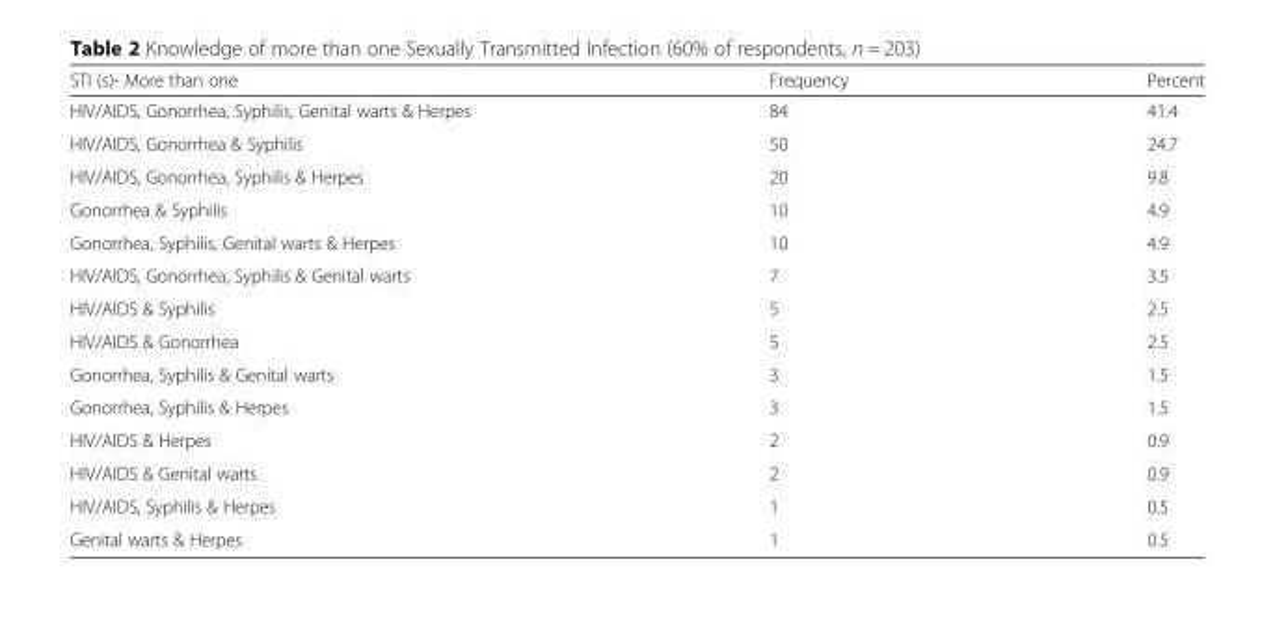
<table><thead><tr><td>STI (s)- More than one</td><td>Frequency</td><td>Percent</td></tr></thead><tbody><tr><td>HIV/AIDS, Gonorrhea, Syphilis, Genital warts &amp; Herpes</td><td>84</td><td>41.4</td></tr><tr><td>HIV/AIDS, Gonorrhea &amp; Syphilis</td><td>50</td><td>24.7</td></tr><tr><td>HIV/AIDS, Gonorrhea, Syphilis &amp; Herpes</td><td>20</td><td>9.8</td></tr><tr><td>Gonorrhea &amp; Syphilis</td><td>10</td><td>4.9</td></tr><tr><td>Gonorrhea, Syphilis, Genital warts &amp; Herpes</td><td>10</td><td>4.9</td></tr><tr><td>HIV/AIDS, Gonorrhea, Syphilis &amp; Genital warts</td><td>7</td><td>3.5</td></tr><tr><td>HIV/AIDS &amp; Syphilis</td><td>5</td><td>2.5</td></tr><tr><td>HIV/AIDS &amp; Gonorrhea</td><td>5</td><td>2.5</td></tr><tr><td>Gonorrhea, Syphilis &amp; Genital warts</td><td>3</td><td>1.5</td></tr><tr><td>Gonorrhea, Syphilis &amp; Herpes</td><td>3</td><td>1.5</td></tr><tr><td>HIV/AIDS &amp; Herpes</td><td>2</td><td>0.9</td></tr><tr><td>HIV/AIDS &amp; Genital warts</td><td>2</td><td>0.9</td></tr><tr><td>HIV/AIDS, Syphilis &amp; Herpes</td><td>1</td><td>0.5</td></tr><tr><td>Genital warts &amp; Herpes</td><td>1</td><td>0.5</td></tr></tbody></table>